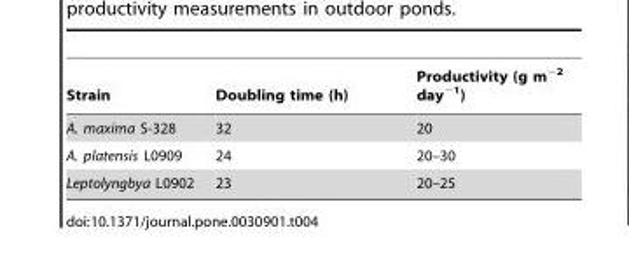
<table><thead><tr><td>Strain</td><td>Doubling time (h)</td><td>Productivity (g m<sup>−2</sup> day<sup>−1</sup>)</td></tr></thead><tbody><tr><td>A. maxima S-328</td><td>32</td><td>20</td></tr><tr><td>A. platensis L0909</td><td>24</td><td>20–30</td></tr><tr><td>Leptolyngbya L0902</td><td>23</td><td>20–25</td></tr></tbody></table>